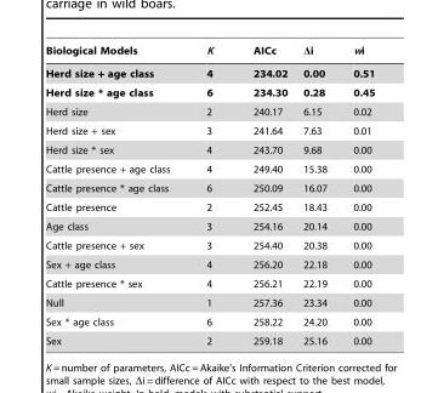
<table><thead><tr><td>Biological Models</td><td>K</td><td>AICc</td><td>Δi</td><td>wi</td></tr></thead><tbody><tr><td>Herd size + age class</td><td>4</td><td>234.02</td><td>0.00</td><td>0.51</td></tr><tr><td>Herd size * age class</td><td>6</td><td>234.30</td><td>0.28</td><td>0.45</td></tr><tr><td>Herd size</td><td>2</td><td>240.17</td><td>6.15</td><td>0.02</td></tr><tr><td>Herd size + sex</td><td>3</td><td>241.64</td><td>7.63</td><td>0.01</td></tr><tr><td>Herd size * sex</td><td>4</td><td>243.70</td><td>9.68</td><td>0.00</td></tr><tr><td>Cattle presence + age class</td><td>4</td><td>249.40</td><td>15.38</td><td>0.00</td></tr><tr><td>Cattle presence * age class</td><td>6</td><td>250.09</td><td>16.07</td><td>0.00</td></tr><tr><td>Cattle presence</td><td>2</td><td>252.45</td><td>18.43</td><td>0.00</td></tr><tr><td>Age class</td><td>3</td><td>254.16</td><td>20.14</td><td>0.00</td></tr><tr><td>Cattle presence + sex</td><td>3</td><td>254.40</td><td>20.38</td><td>0.00</td></tr><tr><td>Sex + age class</td><td>4</td><td>256.20</td><td>22.18</td><td>0.00</td></tr><tr><td>Cattle presence * sex</td><td>4</td><td>256.21</td><td>22.19</td><td>0.00</td></tr><tr><td>Null</td><td>1</td><td>257.36</td><td>23.34</td><td>0.00</td></tr><tr><td>Sex * age class</td><td>6</td><td>258.22</td><td>24.20</td><td>0.00</td></tr><tr><td>Sex</td><td>2</td><td>259.18</td><td>25.16</td><td>0.00</td></tr></tbody></table>